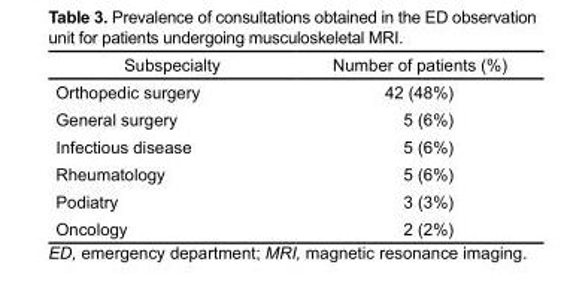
<table><thead><tr><td>Subspecialty</td><td>Number of patients (%)</td></tr></thead><tbody><tr><td>Orthopedic surgery</td><td>42 (48%)</td></tr><tr><td>General surgery</td><td>5 (6%)</td></tr><tr><td>Infectious disease</td><td>5 (6%)</td></tr><tr><td>Rheumatology</td><td>5 (6%)</td></tr><tr><td>Podiatry</td><td>3 (3%)</td></tr><tr><td>Oncology</td><td>2 (2%)</td></tr></tbody></table>